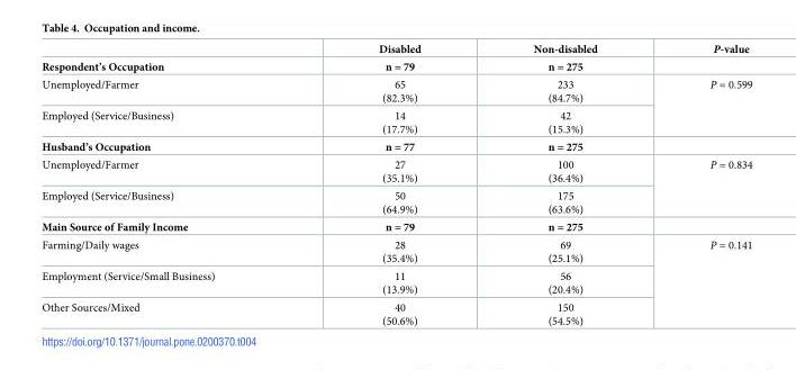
<table><thead><tr><td></td><td>Disabled</td><td>Non-disabled</td><td>P-value</td></tr></thead><tbody><tr><td>Respondent’s Occupation</td><td>n = 79</td><td>n = 275</td><td></td></tr><tr><td>Unemployed/Farmer</td><td>65 (82.3%)</td><td>233 (84.7%)</td><td rowspan="2">P = 0.599</td></tr><tr><td>Employed (Service/Business)</td><td>14 (17.7%)</td><td>42 (15.3%)</td></tr><tr><td>Husband’s Occupation</td><td>n = 77</td><td>n = 275</td><td></td></tr><tr><td>Unemployed/Farmer</td><td>27 (35.1%)</td><td>100 (36.4%)</td><td rowspan="2">P = 0.834</td></tr><tr><td>Employed (Service/Business)</td><td>50 (64.9%)</td><td>175 (63.6%)</td></tr><tr><td>Main Source of Family Income</td><td>n = 79</td><td>n = 275</td><td></td></tr><tr><td>Farming/Daily wages</td><td>28 (35.4%)</td><td>69 (25.1%)</td><td rowspan="3">P = 0.141</td></tr><tr><td>Employment (Service/Small Business)</td><td>11 (13.9%)</td><td>56 (20.4%)</td></tr><tr><td>Other Sources/Mixed</td><td>40 (50.6%)</td><td>150 (54.5%)</td></tr></tbody></table>